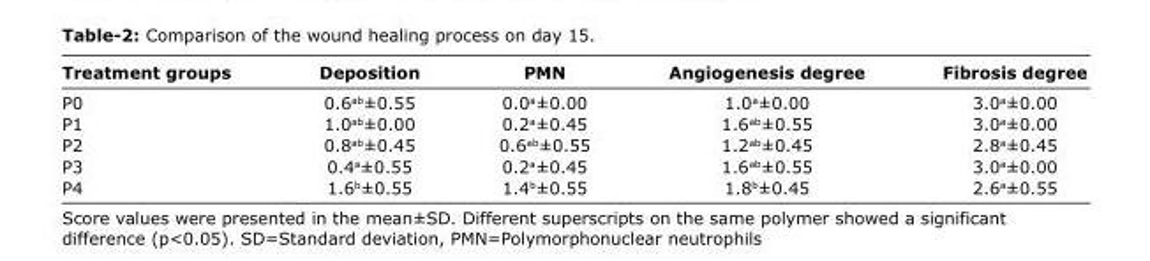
<table><thead><tr><td>Treatment groups</td><td>Deposition</td><td>PMN</td><td>Angiogenesis degree</td><td>Fibrosis degree</td></tr></thead><tbody><tr><td>P0</td><td>0.6<sup>ab</sup>±0.55</td><td>0.0<sup>a</sup>±0.00</td><td>1.0<sup>a</sup>±0.00</td><td>3.0<sup>a</sup>±0.00</td></tr><tr><td>P1</td><td>1.0<sup>ab</sup>±0.00</td><td>0.2<sup>a</sup>±0.45</td><td>1.6<sup>ab</sup>±0.55</td><td>3.0<sup>a</sup>±0.00</td></tr><tr><td>P2</td><td>0.8<sup>ab</sup>±0.45</td><td>0.6<sup>ab</sup>±0.55</td><td>1.2<sup>ab</sup>±0.45</td><td>2.8<sup>a</sup>±0.45</td></tr><tr><td>P3</td><td>0.4<sup>a</sup>±0.55</td><td>0.2<sup>a</sup>±0.45</td><td>1.6<sup>ab</sup>±0.55</td><td>3.0<sup>a</sup>±0.00</td></tr><tr><td>P4</td><td>1.6<sup>b</sup>±0.55</td><td>1.4<sup>b</sup>±0.55</td><td>1.8<sup>b</sup>±0.45</td><td>2.6<sup>a</sup>±0.55</td></tr></tbody></table>